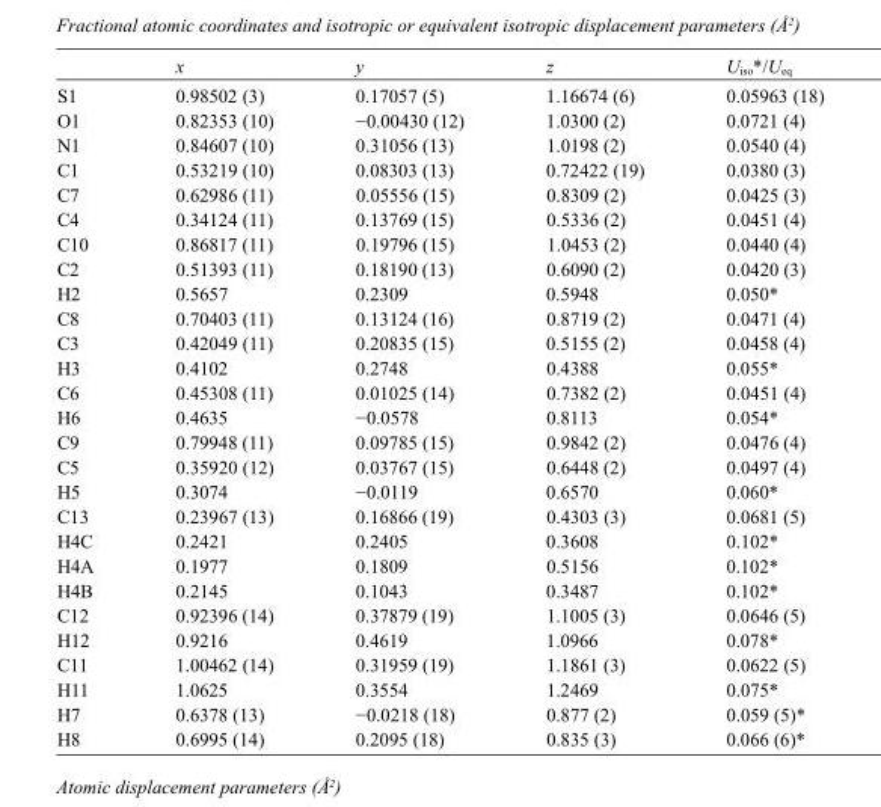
<table><thead><tr><td></td><td>x</td><td>y</td><td>z</td><td>U<sub>iso</sub>*/U<sub>eq</sub></td></tr></thead><tbody><tr><td>S1</td><td>0.98502 (3)</td><td>0.17057 (5)</td><td>1.16674 (6)</td><td>0.05963 (18)</td></tr><tr><td>O1</td><td>0.82353 (10)</td><td>−0.00430 (12)</td><td>1.0300 (2)</td><td>0.0721 (4)</td></tr><tr><td>N1</td><td>0.84607 (10)</td><td>0.31056 (13)</td><td>1.0198 (2)</td><td>0.0540 (4)</td></tr><tr><td>C1</td><td>0.53219 (10)</td><td>0.08303 (13)</td><td>0.72422 (19)</td><td>0.0380 (3)</td></tr><tr><td>C7</td><td>0.62986 (11)</td><td>0.05556 (15)</td><td>0.8309 (2)</td><td>0.0425 (3)</td></tr><tr><td>C4</td><td>0.34124 (11)</td><td>0.13769 (15)</td><td>0.5336 (2)</td><td>0.0451 (4)</td></tr><tr><td>C10</td><td>0.86817 (11)</td><td>0.19796 (15)</td><td>1.0453 (2)</td><td>0.0440 (4)</td></tr><tr><td>C2</td><td>0.51393 (11)</td><td>0.18190 (13)</td><td>0.6090 (2)</td><td>0.0420 (3)</td></tr><tr><td>H2</td><td>0.5657</td><td>0.2309</td><td>0.5948</td><td>0.050*</td></tr><tr><td>C8</td><td>0.70403 (11)</td><td>0.13124 (16)</td><td>0.8719 (2)</td><td>0.0471 (4)</td></tr><tr><td>C3</td><td>0.42049 (11)</td><td>0.20835 (15)</td><td>0.5155 (2)</td><td>0.0458 (4)</td></tr><tr><td>H3</td><td>0.4102</td><td>0.2748</td><td>0.4388</td><td>0.055*</td></tr><tr><td>C6</td><td>0.45308 (11)</td><td>0.01025 (14)</td><td>0.7382 (2)</td><td>0.0451 (4)</td></tr><tr><td>H6</td><td>0.4635</td><td>−0.0578</td><td>0.8113</td><td>0.054*</td></tr><tr><td>C9</td><td>0.79948 (11)</td><td>0.09785 (15)</td><td>0.9842 (2)</td><td>0.0476 (4)</td></tr><tr><td>C5</td><td>0.35920 (12)</td><td>0.03767 (15)</td><td>0.6448 (2)</td><td>0.0497 (4)</td></tr><tr><td>H5</td><td>0.3074</td><td>−0.0119</td><td>0.6570</td><td>0.060*</td></tr><tr><td>C13</td><td>0.23967 (13)</td><td>0.16866 (19)</td><td>0.4303 (3)</td><td>0.0681 (5)</td></tr><tr><td>H4C</td><td>0.2421</td><td>0.2405</td><td>0.3608</td><td>0.102*</td></tr><tr><td>H4A</td><td>0.1977</td><td>0.1809</td><td>0.5156</td><td>0.102*</td></tr><tr><td>H4B</td><td>0.2145</td><td>0.1043</td><td>0.3487</td><td>0.102*</td></tr><tr><td>C12</td><td>0.92396 (14)</td><td>0.37879 (19)</td><td>1.1005 (3)</td><td>0.0646 (5)</td></tr><tr><td>H12</td><td>0.9216</td><td>0.4619</td><td>1.0966</td><td>0.078*</td></tr><tr><td>C11</td><td>1.00462 (14)</td><td>0.31959 (19)</td><td>1.1861 (3)</td><td>0.0622 (5)</td></tr><tr><td>H11</td><td>1.0625</td><td>0.3554</td><td>1.2469</td><td>0.075*</td></tr><tr><td>H7</td><td>0.6378 (13)</td><td>−0.0218 (18)</td><td>0.877 (2)</td><td>0.059 (5)*</td></tr><tr><td>H8</td><td>0.6995 (14)</td><td>0.2095 (18)</td><td>0.835 (3)</td><td>0.066 (6)*</td></tr></tbody></table>